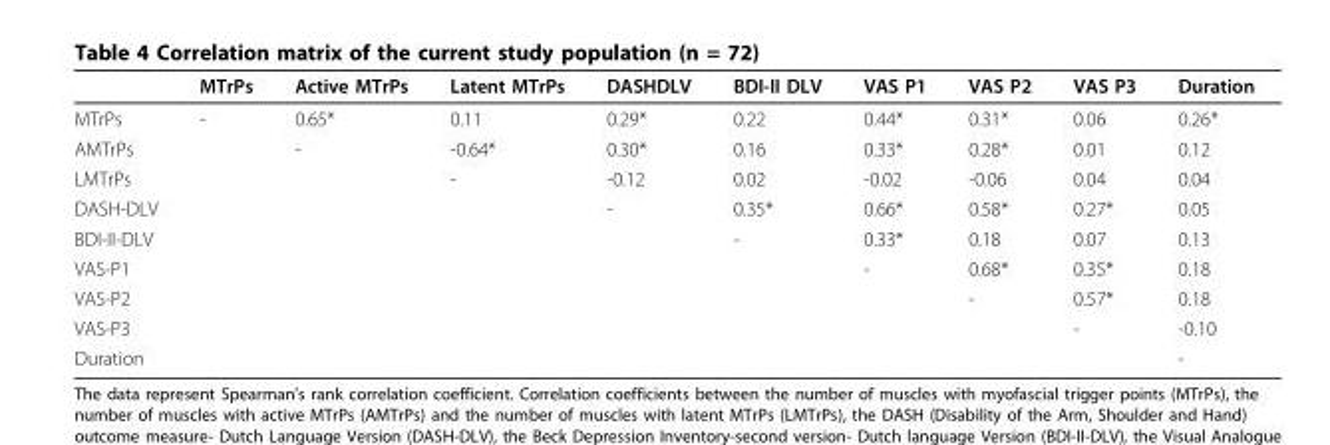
<table><thead><tr><td></td><td>MTrPs</td><td>Active MTrPs</td><td>Latent MTrPs</td><td>DASHDLV</td><td>BDI-II DLV</td><td>VAS P1</td><td>VAS P2</td><td>VAS P3</td><td>Duration</td></tr></thead><tbody><tr><td>MTrPs</td><td>-</td><td>0.65*</td><td>0.11</td><td>0.29*</td><td>0.22</td><td>0.44*</td><td>0.31*</td><td>0.06</td><td>0.26*</td></tr><tr><td>AMTrPs</td><td></td><td>-</td><td>-0.64*</td><td>0.30*</td><td>0.16</td><td>0.33*</td><td>0.28*</td><td>0.01</td><td>0.12</td></tr><tr><td>LMTrPs</td><td></td><td></td><td>-</td><td>-0.12</td><td>0.02</td><td>-0.02</td><td>-0.06</td><td>0.04</td><td>0.04</td></tr><tr><td>DASH-DLV</td><td></td><td></td><td></td><td>-</td><td>0.35*</td><td>0.66*</td><td>0.58*</td><td>0.27*</td><td>0.05</td></tr><tr><td>BDI-II-DLV</td><td></td><td></td><td></td><td></td><td>-</td><td>0.33*</td><td>0.18</td><td>0.07</td><td>0.13</td></tr><tr><td>VAS-P1</td><td></td><td></td><td></td><td></td><td></td><td>-</td><td>0.68*</td><td>0.35*</td><td>0.18</td></tr><tr><td>VAS-P2</td><td></td><td></td><td></td><td></td><td></td><td></td><td>-</td><td>0.57*</td><td>0.18</td></tr><tr><td>VAS-P3</td><td></td><td></td><td></td><td></td><td></td><td></td><td></td><td>-</td><td>-0.10</td></tr><tr><td>Duration</td><td></td><td></td><td></td><td></td><td></td><td></td><td></td><td></td><td>-</td></tr></tbody></table>